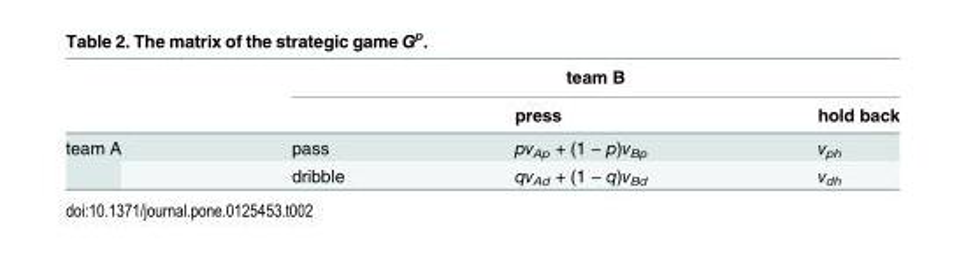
<table><thead><tr><td rowspan="2"></td><td colspan="3">team B</td></tr><tr><td></td><td>press</td><td>hold back</td></tr></thead><tbody><tr><td rowspan="2">team A</td><td>pass</td><td>pv<sub>Ap</sub> + (1 − p)v<sub>Bp</sub></td><td>v<sub>ph</sub></td></tr><tr><td>dribble</td><td>qv<sub>Ad</sub> + (1 − q)v<sub>Bd</sub></td><td>v<sub>dh</sub></td></tr></tbody></table>